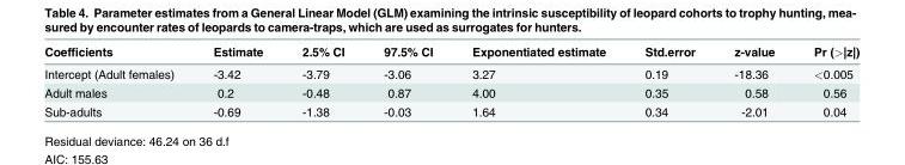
<table><thead><tr><td>Coefficients</td><td>Estimate</td><td>2.5% CI</td><td>97.5% CI</td><td>Exponentiated estimate</td><td>Std.error</td><td>z-value</td><td>Pr (&gt;|z|)</td></tr></thead><tbody><tr><td>Intercept (Adult females)</td><td>-3.42</td><td>-3.79</td><td>-3.06</td><td>3.27</td><td>0.19</td><td>-18.36</td><td>&lt;0.005</td></tr><tr><td>Adult males</td><td>0.2</td><td>-0.48</td><td>0.87</td><td>4.00</td><td>0.35</td><td>0.58</td><td>0.56</td></tr><tr><td>Sub-adults</td><td>-0.69</td><td>-1.38</td><td>-0.03</td><td>1.64</td><td>0.34</td><td>-2.01</td><td>0.04</td></tr></tbody></table>